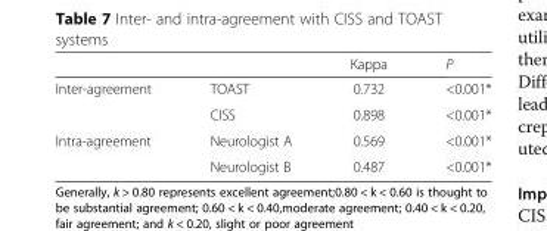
<table><thead><tr><td></td><td></td><td>Kappa</td><td>P</td></tr></thead><tbody><tr><td rowspan="2">Inter-agreement</td><td>TOAST</td><td>0.732</td><td>&lt;0.001*</td></tr><tr><td>CISS</td><td>0.898</td><td>&lt;0.001*</td></tr><tr><td rowspan="2">Intra-agreement</td><td>Neurologist A</td><td>0.569</td><td>&lt;0.001*</td></tr><tr><td>Neurologist B</td><td>0.487</td><td>&lt;0.001*</td></tr></tbody></table>